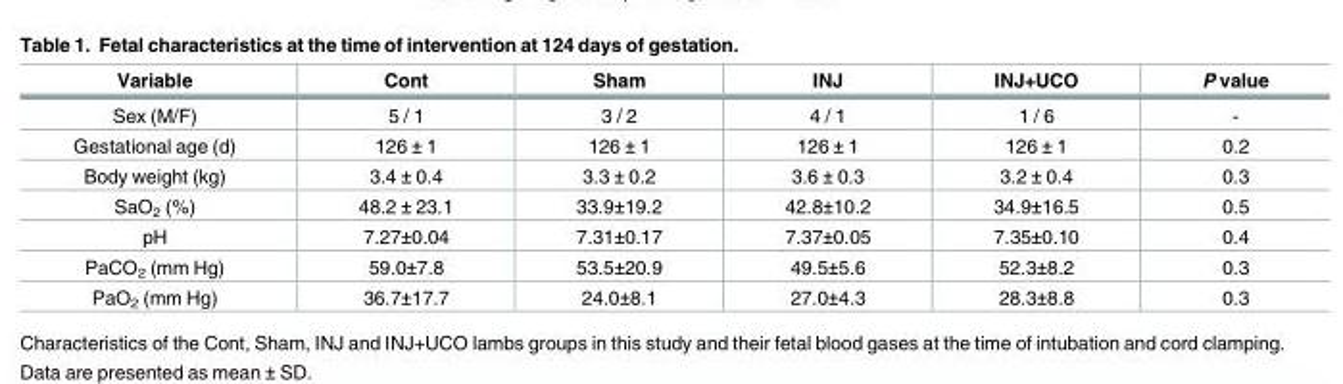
<table><thead><tr><td>Variable</td><td>Cont</td><td>Sham</td><td>INJ</td><td>INJ+UCO</td><td>P value</td></tr></thead><tbody><tr><td>Sex (M/F)</td><td>5 / 1</td><td>3 / 2</td><td>4 / 1</td><td>1 / 6</td><td>-</td></tr><tr><td>Gestational age (d)</td><td>126 ± 1</td><td>126 ± 1</td><td>126 ± 1</td><td>126 ± 1</td><td>0.2</td></tr><tr><td>Body weight (kg)</td><td>3.4 ± 0.4</td><td>3.3 ± 0.2</td><td>3.6 ± 0.3</td><td>3.2 ± 0.4</td><td>0.3</td></tr><tr><td>SaO<sub>2</sub> (%)</td><td>48.2 ± 23.1</td><td>33.9±19.2</td><td>42.8±10.2</td><td>34.9±16.5</td><td>0.5</td></tr><tr><td>pH</td><td>7.27±0.04</td><td>7.31±0.17</td><td>7.37±0.05</td><td>7.35±0.10</td><td>0.4</td></tr><tr><td>PaCO<sub>2</sub> (mm Hg)</td><td>59.0±7.8</td><td>53.5±20.9</td><td>49.5±5.6</td><td>52.3±8.2</td><td>0.3</td></tr><tr><td>PaO<sub>2</sub> (mm Hg)</td><td>36.7±17.7</td><td>24.0±8.1</td><td>27.0±4.3</td><td>28.3±8.8</td><td>0.3</td></tr></tbody></table>